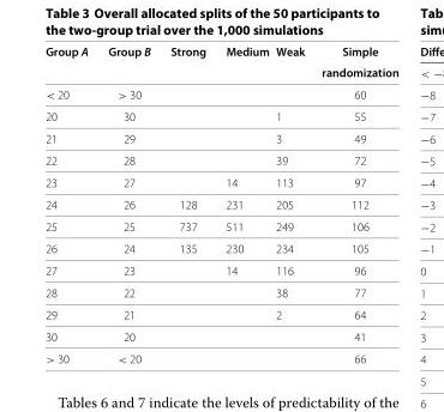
<table><thead><tr><td rowspan="2">Group A</td><td rowspan="2">Group B</td><td rowspan="2">Strong</td><td rowspan="2">Medium</td><td rowspan="2">Weak</td><td rowspan="2">Simple randomization</td></tr><tr></tr></thead><tbody><tr><td>&lt; 20</td><td>&gt; 30</td><td></td><td></td><td></td><td>60</td></tr><tr><td>20</td><td>30</td><td></td><td></td><td>1</td><td>55</td></tr><tr><td>21</td><td>29</td><td></td><td></td><td>3</td><td>49</td></tr><tr><td>22</td><td>28</td><td></td><td></td><td>39</td><td>72</td></tr><tr><td>23</td><td>27</td><td></td><td>14</td><td>113</td><td>97</td></tr><tr><td>24</td><td>26</td><td>128</td><td>231</td><td>205</td><td>112</td></tr><tr><td>25</td><td>25</td><td>737</td><td>511</td><td>249</td><td>106</td></tr><tr><td>26</td><td>24</td><td>135</td><td>230</td><td>234</td><td>105</td></tr><tr><td>27</td><td>23</td><td></td><td>14</td><td>116</td><td>96</td></tr><tr><td>28</td><td>22</td><td></td><td></td><td>38</td><td>77</td></tr><tr><td>29</td><td>21</td><td></td><td></td><td>2</td><td>64</td></tr><tr><td>30</td><td>20</td><td></td><td></td><td></td><td>41</td></tr><tr><td>&gt; 30</td><td>&lt; 20</td><td></td><td></td><td></td><td>66</td></tr></tbody></table>